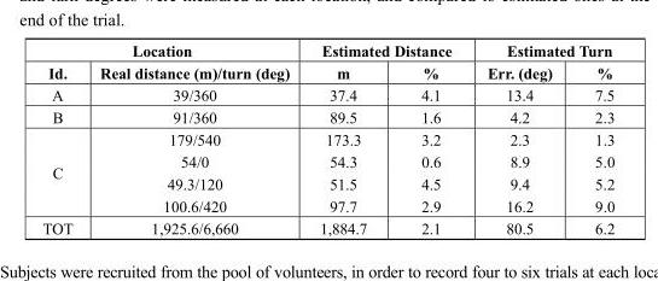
<table><thead><tr><td colspan="2">Location</td><td colspan="2">Estimated Distance</td><td colspan="2">Estimated Turn</td></tr><tr><td>Id.</td><td>Real distance (m)/turn (deg)</td><td>m</td><td>%</td><td>Err. (deg)</td><td>%</td></tr></thead><tbody><tr><td>A</td><td>39/360</td><td>37.4</td><td>4.1</td><td>13.4</td><td>7.5</td></tr><tr><td>B</td><td>91/360</td><td>89.5</td><td>1.6</td><td>4.2</td><td>2.3</td></tr><tr><td rowspan="4">C</td><td>179/540</td><td>173.3</td><td>3.2</td><td>2.3</td><td>1.3</td></tr><tr><td>54/0</td><td>54.3</td><td>0.6</td><td>8.9</td><td>5.0</td></tr><tr><td>49.3/120</td><td>51.5</td><td>4.5</td><td>9.4</td><td>5.2</td></tr><tr><td>100.6/420</td><td>97.7</td><td>2.9</td><td>16.2</td><td>9.0</td></tr><tr><td>TOT</td><td>1,925.6/6,660</td><td>1,884.7</td><td>2.1</td><td>80.5</td><td>6.2</td></tr></tbody></table>